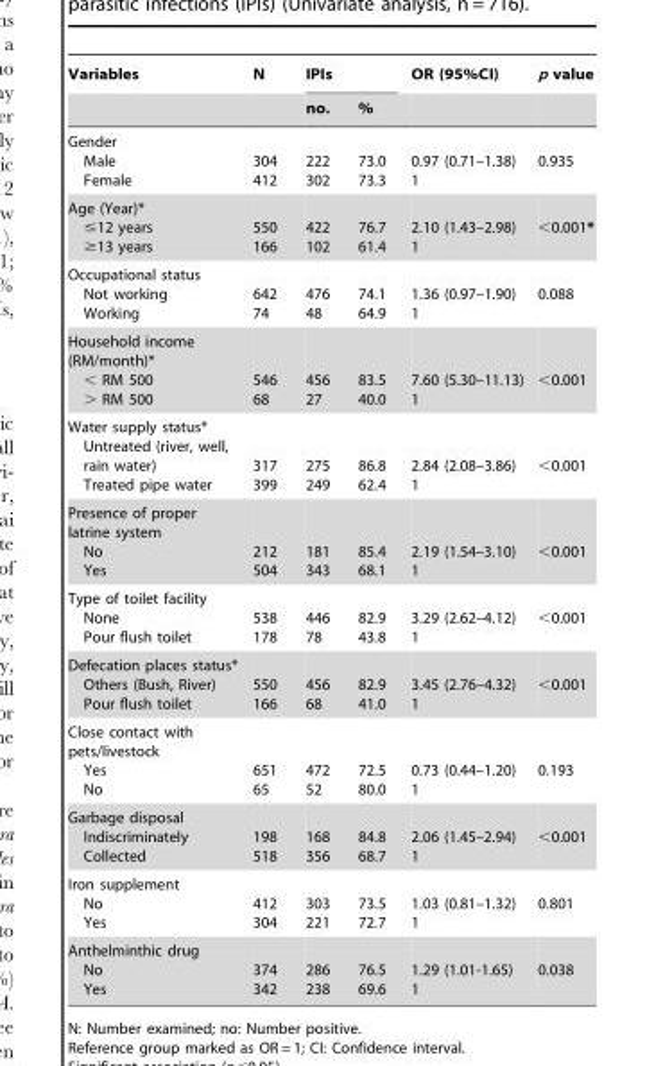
<table><thead><tr><td rowspan="2">Variables</td><td rowspan="2">N</td><td colspan="2">IPIs</td><td rowspan="2">OR (95%CI)</td><td rowspan="2">p value</td></tr><tr><td>no.</td><td>%</td></tr></thead><tbody><tr><td>Gender Male Female</td><td>304 412</td><td>222 302</td><td>73.0 73.3</td><td>0.97 (0.71–1.38) 1</td><td>0.935</td></tr><tr><td>Age (Year)* ≤12 years ≥13 years</td><td>550 166</td><td>422 102</td><td>76.7 61.4</td><td>2.10 (1.43–2.98) 1</td><td>&lt;0.001*</td></tr><tr><td>Occupational status Not working Working</td><td>642 74</td><td>476 48</td><td>74.1 64.9</td><td>1.36 (0.97–1.90) 1</td><td>0.088</td></tr><tr><td>Household income (RM/month)* &lt; RM 500 &gt; RM 500</td><td>546 68</td><td>456 27</td><td>83.5 40.0</td><td>7.60 (5.30–11.13) 1</td><td>&lt;0.001</td></tr><tr><td>Water supply status* Untreated (river, well, rain water) Treated pipe water</td><td>317 399</td><td>275 249</td><td>86.8 62.4</td><td>2.84 (2.08–3.86) 1</td><td>&lt;0.001</td></tr><tr><td>Presence of proper latrine system No Yes</td><td>212 504</td><td>181 343</td><td>85.4 68.1</td><td>2.19 (1.54–3.10) 1</td><td>&lt;0.001</td></tr><tr><td>Type of toilet facility None Pour flush toilet</td><td>538 178</td><td>446 78</td><td>82.9 43.8</td><td>3.29 (2.62–4.12) 1</td><td>&lt;0.001</td></tr><tr><td>Defecation places status* Others (Bush, River) Pour flush toilet</td><td>550 166</td><td>456 68</td><td>82.9 41.0</td><td>3.45 (2.76–4.32) 1</td><td>&lt;0.001</td></tr><tr><td>Close contact with pets/livestock Yes No</td><td>651 65</td><td>472 52</td><td>72.5 80.0</td><td>0.73 (0.44–1.20) 1</td><td>0.193</td></tr><tr><td>Garbage disposal Indiscriminately Collected</td><td>198 518</td><td>168 356</td><td>84.8 68.7</td><td>2.06 (1.45–2.94) 1</td><td>&lt;0.001</td></tr><tr><td>Iron supplement No Yes</td><td>412 304</td><td>303 221</td><td>73.5 72.7</td><td>1.03 (0.81–1.32) 1</td><td>0.801</td></tr><tr><td>Anthelminthic drug No Yes</td><td>374 342</td><td>286 238</td><td>76.5 69.6</td><td>1.29 (1.01-1.65) 1</td><td>0.038</td></tr></tbody></table>